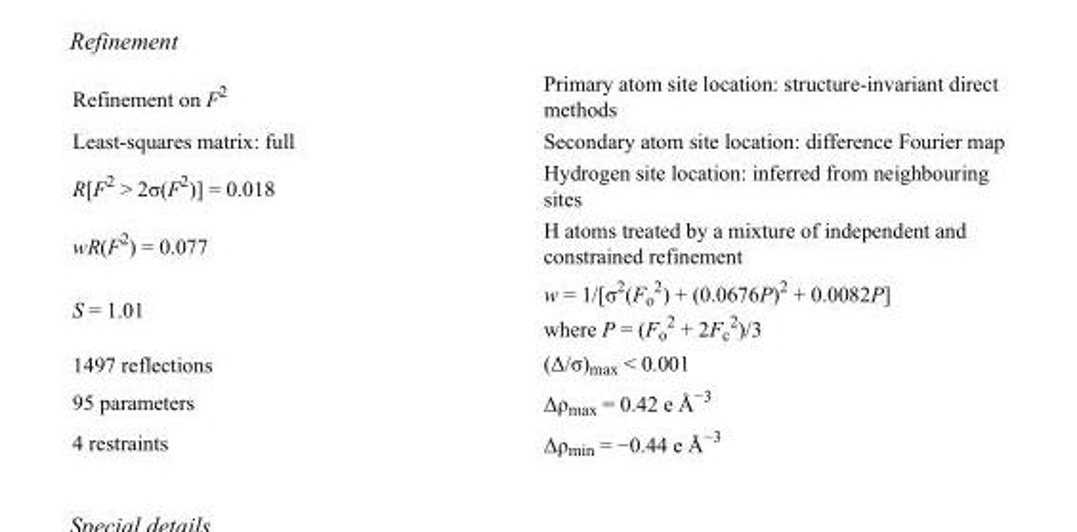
<table><tbody><tr><td>Refinement on F<sup>2</sup></td><td>Primary atom site location: structure-invariant direct methods</td></tr><tr><td>Least-squares matrix: full</td><td>Secondary atom site location: difference Fourier map</td></tr><tr><td>R[F<sup>2</sup> &gt; 2σ(F<sup>2</sup>)] = 0.018</td><td>Hydrogen site location: inferred from neighbouring sites</td></tr><tr><td>wR(F<sup>2</sup>) = 0.077</td><td>H atoms treated by a mixture of independent and constrained refinement</td></tr><tr><td>S = 1.01</td><td>w = 1/[σ<sup>2</sup>(F<sub>o</sub> <sup>2</sup>) + (0.0676P)<sup>2</sup> + 0.0082P] where P = (F<sub>o</sub> <sup>2</sup> + 2F<sub>c</sub> <sup>2</sup>)/3</td></tr><tr><td>1497 reflections</td><td>(Δ/σ)<sub>max</sub> &lt; 0.001</td></tr><tr><td>95 parameters</td><td>Δρ<sub>max</sub> = 0.42 e Å<sup>−3</sup></td></tr><tr><td>4 restraints</td><td>Δρ<sub>min</sub> = −0.44 e Å<sup>−3</sup></td></tr></tbody></table>